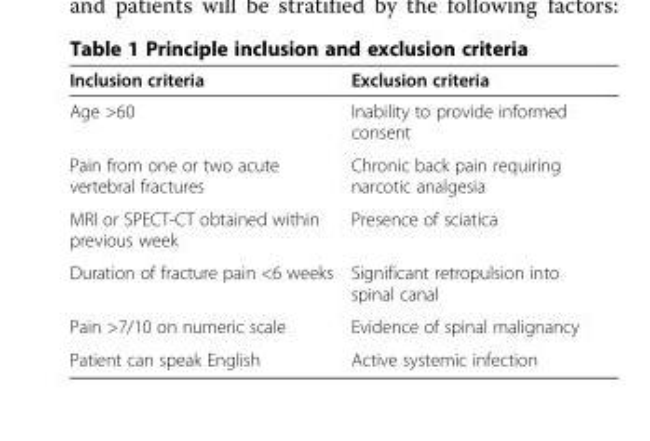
<table><thead><tr><td>Inclusion criteria</td><td>Exclusion criteria</td></tr></thead><tbody><tr><td>Age &gt;60</td><td>Inability to provide informed consent</td></tr><tr><td>Pain from one or two acute vertebral fractures</td><td>Chronic back pain requiring narcotic analgesia</td></tr><tr><td>MRI or SPECT-CT obtained within previous week</td><td>Presence of sciatica</td></tr><tr><td>Duration of fracture pain &lt;6 weeks</td><td>Significant retropulsion into spinal canal</td></tr><tr><td>Pain &gt;7/10 on numeric scale</td><td>Evidence of spinal malignancy</td></tr><tr><td>Patient can speak English</td><td>Active systemic infection</td></tr></tbody></table>